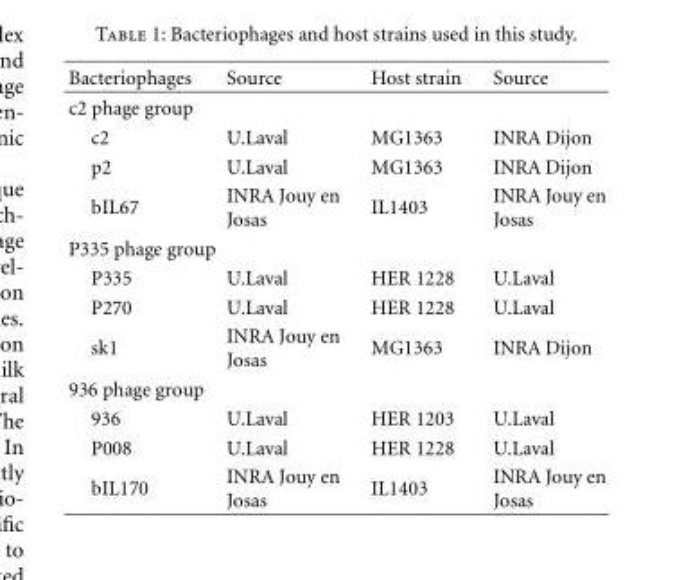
<table><thead><tr><td>Bacteriophages</td><td>Source</td><td>Host strain</td><td>Source</td></tr></thead><tbody><tr><td colspan="4">c2 phage group</td></tr><tr><td>c2</td><td>U.Laval</td><td>MG1363</td><td>INRA Dijon</td></tr><tr><td>p2</td><td>U.Laval</td><td>MG1363</td><td>INRA Dijon</td></tr><tr><td>bIL67</td><td>INRA Jouy en Josas</td><td>IL1403</td><td>INRA Jouy en Josas</td></tr><tr><td colspan="4">P335 phage group</td></tr><tr><td>P335</td><td>U.Laval</td><td>HER 1228</td><td>U.Laval</td></tr><tr><td>P270</td><td>U.Laval</td><td>HER 1228</td><td>U.Laval</td></tr><tr><td>sk1</td><td>INRA Jouy en Josas</td><td>MG1363</td><td>INRA Dijon</td></tr><tr><td colspan="4">936 phage group</td></tr><tr><td>936</td><td>U.Laval</td><td>HER 1203</td><td>U.Laval</td></tr><tr><td>P008</td><td>U.Laval</td><td>HER 1228</td><td>U.Laval</td></tr><tr><td>bIL170</td><td>INRA Jouy en Josas</td><td>IL1403</td><td>INRA Jouy en Josas</td></tr></tbody></table>